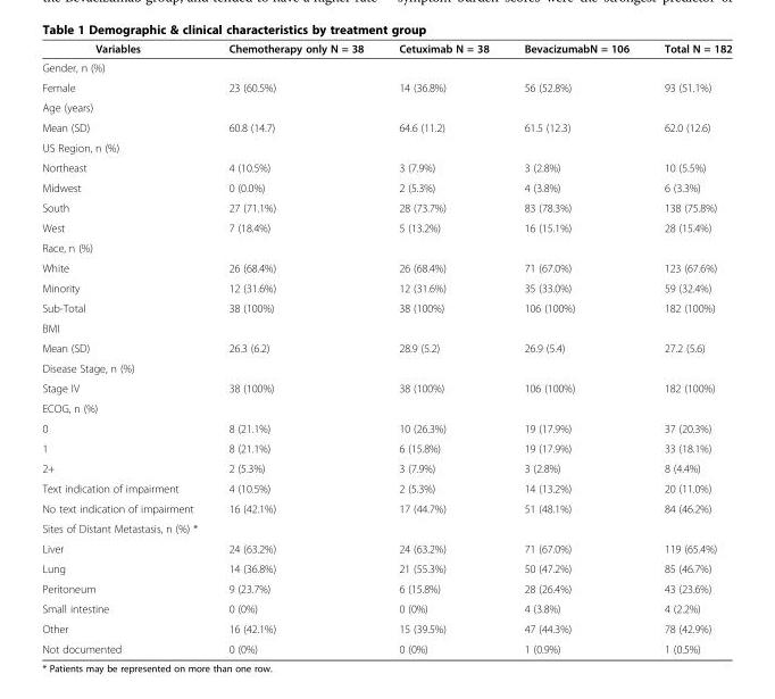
<table><thead><tr><td>Variables</td><td>Chemotherapy only N = 38</td><td>Cetuximab N = 38</td><td>BevacizumabN = 106</td><td>Total N = 182</td></tr></thead><tbody><tr><td colspan="5">Gender, n (%)</td></tr><tr><td>Female</td><td>23 (60.5%)</td><td>14 (36.8%)</td><td>56 (52.8%)</td><td>93 (51.1%)</td></tr><tr><td colspan="5">Age (years)</td></tr><tr><td>Mean (SD)</td><td>60.8 (14.7)</td><td>64.6 (11.2)</td><td>61.5 (12.3)</td><td>62.0 (12.6)</td></tr><tr><td colspan="5">US Region, n (%)</td></tr><tr><td>Northeast</td><td>4 (10.5%)</td><td>3 (7.9%)</td><td>3 (2.8%)</td><td>10 (5.5%)</td></tr><tr><td>Midwest</td><td>0 (0.0%)</td><td>2 (5.3%)</td><td>4 (3.8%)</td><td>6 (3.3%)</td></tr><tr><td>South</td><td>27 (71.1%)</td><td>28 (73.7%)</td><td>83 (78.3%)</td><td>138 (75.8%)</td></tr><tr><td>West</td><td>7 (18.4%)</td><td>5 (13.2%)</td><td>16 (15.1%)</td><td>28 (15.4%)</td></tr><tr><td colspan="5">Race, n (%)</td></tr><tr><td>White</td><td>26 (68.4%)</td><td>26 (68.4%)</td><td>71 (67.0%)</td><td>123 (67.6%)</td></tr><tr><td>Minority</td><td>12 (31.6%)</td><td>12 (31.6%)</td><td>35 (33.0%)</td><td>59 (32.4%)</td></tr><tr><td>Sub-Total</td><td>38 (100%)</td><td>38 (100%)</td><td>106 (100%)</td><td>182 (100%)</td></tr><tr><td colspan="5">BMI</td></tr><tr><td>Mean (SD)</td><td>26.3 (6.2)</td><td>28.9 (5.2)</td><td>26.9 (5.4)</td><td>27.2 (5.6)</td></tr><tr><td colspan="5">Disease Stage, n (%)</td></tr><tr><td>Stage IV</td><td>38 (100%)</td><td>38 (100%)</td><td>106 (100%)</td><td>182 (100%)</td></tr><tr><td colspan="5">ECOG, n (%)</td></tr><tr><td>0</td><td>8 (21.1%)</td><td>10 (26.3%)</td><td>19 (17.9%)</td><td>37 (20.3%)</td></tr><tr><td>1</td><td>8 (21.1%)</td><td>6 (15.8%)</td><td>19 (17.9%)</td><td>33 (18.1%)</td></tr><tr><td>2+</td><td>2 (5.3%)</td><td>3 (7.9%)</td><td>3 (2.8%)</td><td>8 (4.4%)</td></tr><tr><td>Text indication of impairment</td><td>4 (10.5%)</td><td>2 (5.3%)</td><td>14 (13.2%)</td><td>20 (11.0%)</td></tr><tr><td>No text indication of impairment</td><td>16 (42.1%)</td><td>17 (44.7%)</td><td>51 (48.1%)</td><td>84 (46.2%)</td></tr><tr><td colspan="5">Sites of Distant Metastasis, n (%) *</td></tr><tr><td>Liver</td><td>24 (63.2%)</td><td>24 (63.2%)</td><td>71 (67.0%)</td><td>119 (65.4%)</td></tr><tr><td>Lung</td><td>14 (36.8%)</td><td>21 (55.3%)</td><td>50 (47.2%)</td><td>85 (46.7%)</td></tr><tr><td>Peritoneum</td><td>9 (23.7%)</td><td>6 (15.8%)</td><td>28 (26.4%)</td><td>43 (23.6%)</td></tr><tr><td>Small intestine</td><td>0 (0%)</td><td>0 (0%)</td><td>4 (3.8%)</td><td>4 (2.2%)</td></tr><tr><td>Other</td><td>16 (42.1%)</td><td>15 (39.5%)</td><td>47 (44.3%)</td><td>78 (42.9%)</td></tr><tr><td>Not documented</td><td>0 (0%)</td><td>0 (0%)</td><td>1 (0.9%)</td><td>1 (0.5%)</td></tr></tbody></table>